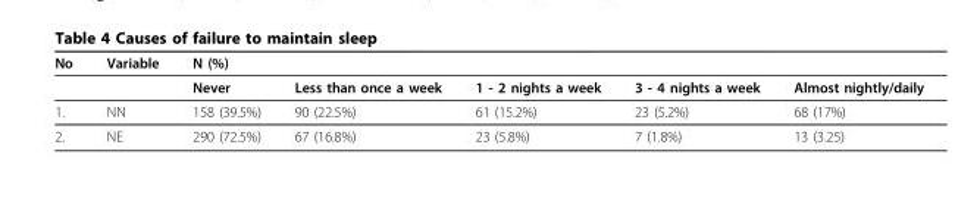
<table><thead><tr><td>No</td><td>Variable</td><td>N (%)</td><td></td><td></td><td></td><td></td></tr></thead><tbody><tr><td></td><td></td><td>Never</td><td>Less than once a week</td><td>1 - 2 nights a week</td><td>3 - 4 nights a week</td><td>Almost nightly/daily</td></tr><tr><td>1.</td><td>NN</td><td>158 (39.5%)</td><td>90 (22.5%)</td><td>61 (15.2%)</td><td>23 (5.2%)</td><td>68 (17%)</td></tr><tr><td>2.</td><td>NE</td><td>290 (72.5%)</td><td>67 (16.8%)</td><td>23 (5.8%)</td><td>7 (1.8%)</td><td>13 (3.25)</td></tr></tbody></table>